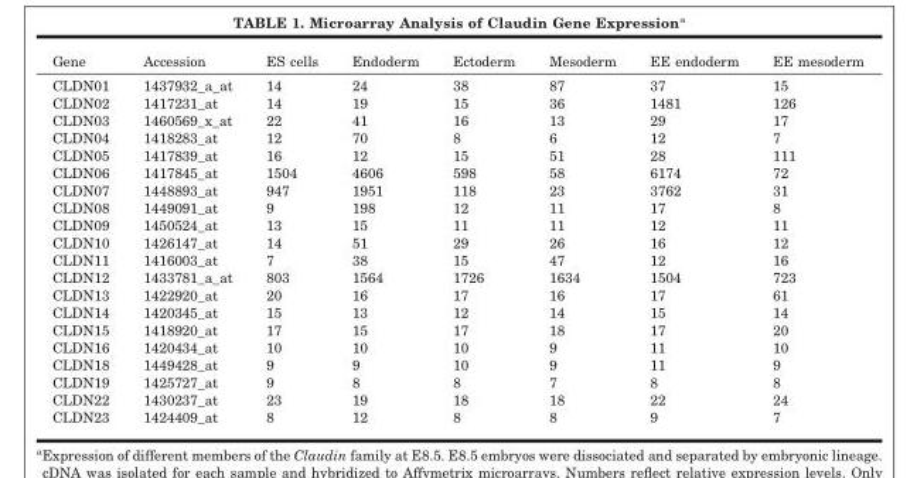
<table><thead><tr><td>Gene</td><td>Accession</td><td>ES cells</td><td>Endoderm</td><td>Ectoderm</td><td>Mesoderm</td><td>EE endoderm</td><td>EE mesoderm</td></tr></thead><tbody><tr><td>CLDN01</td><td>1437932_a_at</td><td>14</td><td>24</td><td>38</td><td>87</td><td>37</td><td>15</td></tr><tr><td>CLDN02</td><td>1417231_at</td><td>14</td><td>19</td><td>15</td><td>36</td><td>1481</td><td>126</td></tr><tr><td>CLDN03</td><td>1460569_x_at</td><td>22</td><td>41</td><td>16</td><td>13</td><td>29</td><td>17</td></tr><tr><td>CLDN04</td><td>1418283_at</td><td>12</td><td>70</td><td>8</td><td>6</td><td>12</td><td>7</td></tr><tr><td>CLDN05</td><td>1417839_at</td><td>16</td><td>12</td><td>15</td><td>51</td><td>28</td><td>111</td></tr><tr><td>CLDN06</td><td>1417845_at</td><td>1504</td><td>4606</td><td>598</td><td>58</td><td>6174</td><td>72</td></tr><tr><td>CLDN07</td><td>1448893_at</td><td>947</td><td>1951</td><td>118</td><td>23</td><td>3762</td><td>31</td></tr><tr><td>CLDN08</td><td>1449091_at</td><td>9</td><td>198</td><td>12</td><td>11</td><td>17</td><td>8</td></tr><tr><td>CLDN09</td><td>1450524_at</td><td>13</td><td>15</td><td>11</td><td>11</td><td>12</td><td>11</td></tr><tr><td>CLDN10</td><td>1426147_at</td><td>14</td><td>51</td><td>29</td><td>26</td><td>16</td><td>12</td></tr><tr><td>CLDN11</td><td>1416003_at</td><td>7</td><td>38</td><td>15</td><td>47</td><td>12</td><td>16</td></tr><tr><td>CLDN12</td><td>1433781_a_at</td><td>803</td><td>1564</td><td>1726</td><td>1634</td><td>1504</td><td>723</td></tr><tr><td>CLDN13</td><td>1422920_at</td><td>20</td><td>16</td><td>17</td><td>16</td><td>17</td><td>61</td></tr><tr><td>CLDN14</td><td>1420345_at</td><td>15</td><td>13</td><td>12</td><td>14</td><td>15</td><td>14</td></tr><tr><td>CLDN15</td><td>1418920_at</td><td>17</td><td>15</td><td>17</td><td>18</td><td>17</td><td>20</td></tr><tr><td>CLDN16</td><td>1420434_at</td><td>10</td><td>10</td><td>10</td><td>9</td><td>11</td><td>10</td></tr><tr><td>CLDN18</td><td>1449428_at</td><td>9</td><td>9</td><td>10</td><td>9</td><td>11</td><td>9</td></tr><tr><td>CLDN19</td><td>1425727_at</td><td>9</td><td>8</td><td>8</td><td>7</td><td>8</td><td>8</td></tr><tr><td>CLDN22</td><td>1430237_at</td><td>23</td><td>19</td><td>18</td><td>18</td><td>22</td><td>24</td></tr><tr><td>CLDN23</td><td>1424409_at</td><td>8</td><td>12</td><td>8</td><td>8</td><td>9</td><td>7</td></tr></tbody></table>